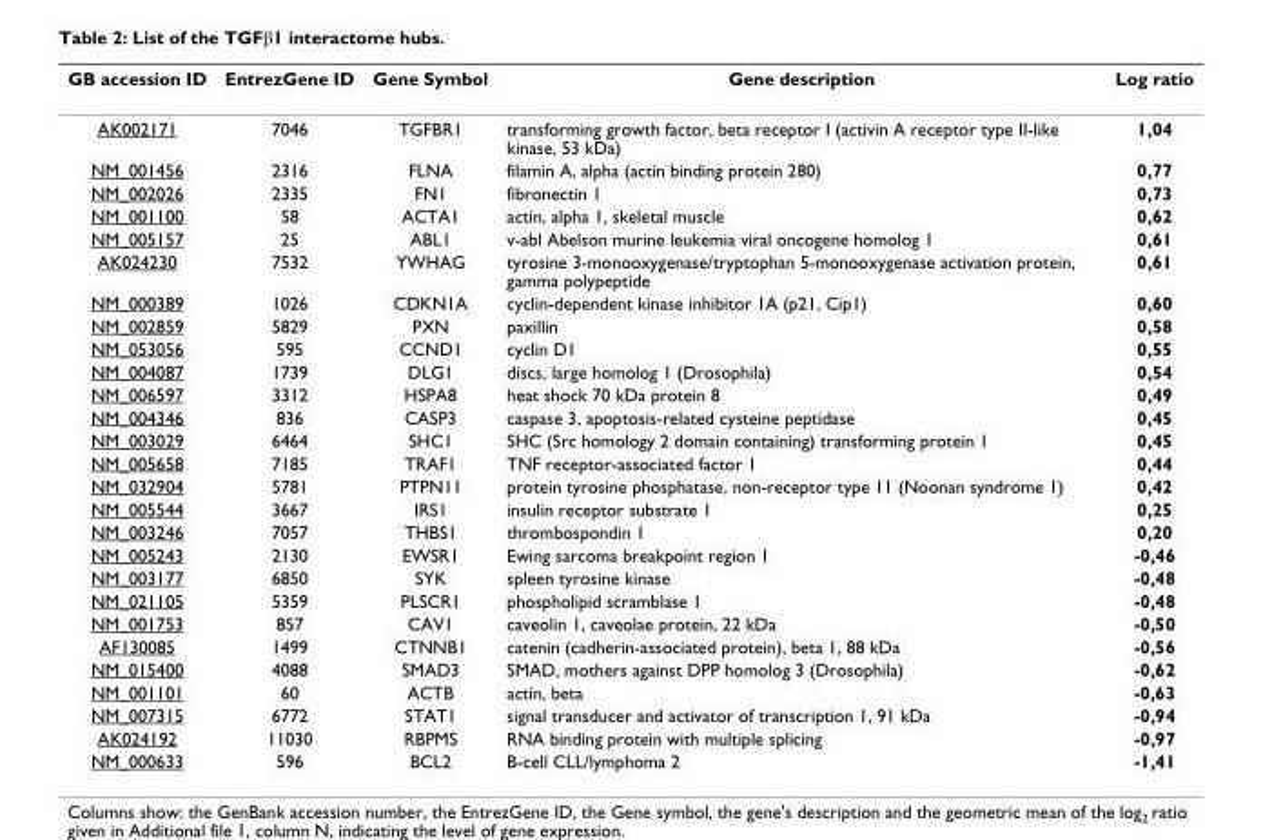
<table><thead><tr><td>GB accession ID</td><td>EntrezGene ID</td><td>Gene Symbol</td><td>Gene description</td><td>Log ratio</td></tr></thead><tbody><tr><td>AK002171</td><td>7046</td><td>TGFBR1</td><td>transforming growth factor, beta receptor I (activin A receptor type II-like kinase, 53 kDa)</td><td>1,04</td></tr><tr><td>NM_001456</td><td>2316</td><td>FLNA</td><td>filamin A, alpha (actin binding protein 280)</td><td>0,77</td></tr><tr><td>NM_002026</td><td>2335</td><td>FN1</td><td>fibronectin 1</td><td>0,73</td></tr><tr><td>NM_001100</td><td>58</td><td>ACTA1</td><td>actin, alpha 1, skeletal muscle</td><td>0,62</td></tr><tr><td>NM_005157</td><td>25</td><td>ABL1</td><td>v-abl Abelson murine leukemia viral oncogene homolog 1</td><td>0,61</td></tr><tr><td>AK024230</td><td>7532</td><td>YWHAG</td><td>tyrosine 3-monooxygenase/tryptophan 5-monooxygenase activation protein, gamma polypeptide</td><td>0,61</td></tr><tr><td>NM_000389</td><td>1026</td><td>CDKN1A</td><td>cyclin-dependent kinase inhibitor 1A (p21, Cip1)</td><td>0,60</td></tr><tr><td>NM_002859</td><td>5829</td><td>PXN</td><td>paxillin</td><td>0,58</td></tr><tr><td>NM_053056</td><td>595</td><td>CCND1</td><td>cyclin D1</td><td>0,55</td></tr><tr><td>NM_004087</td><td>1739</td><td>DLG1</td><td>discs, large homolog 1 (Drosophila)</td><td>0,54</td></tr><tr><td>NM_006597</td><td>3312</td><td>HSPA8</td><td>heat shock 70 kDa protein 8</td><td>0,49</td></tr><tr><td>NM_004346</td><td>836</td><td>CASP3</td><td>caspase 3, apoptosis-related cysteine peptidase</td><td>0,45</td></tr><tr><td>NM_003029</td><td>6464</td><td>SHC1</td><td>SHC (Src homology 2 domain containing) transforming protein 1</td><td>0,45</td></tr><tr><td>NM_005658</td><td>7185</td><td>TRAF1</td><td>TNF receptor-associated factor 1</td><td>0,44</td></tr><tr><td>NM_032904</td><td>5781</td><td>PTPN11</td><td>protein tyrosine phosphatase, non-receptor type 11 (Noonan syndrome 1)</td><td>0,42</td></tr><tr><td>NM_005544</td><td>3667</td><td>IRS1</td><td>insulin receptor substrate 1</td><td>0,25</td></tr><tr><td>NM_003246</td><td>7057</td><td>THBS1</td><td>thrombospondin 1</td><td>0,20</td></tr><tr><td>NM_005243</td><td>2130</td><td>EWSR1</td><td>Ewing sarcoma breakpoint region 1</td><td>-0,46</td></tr><tr><td>NM_003177</td><td>6850</td><td>SYK</td><td>spleen tyrosine kinase</td><td>-0,48</td></tr><tr><td>NM_021105</td><td>5359</td><td>PLSCR1</td><td>phospholipid scramblase 1</td><td>-0,48</td></tr><tr><td>NM_001753</td><td>857</td><td>CAV1</td><td>caveolin 1, caveolae protein, 22 kDa</td><td>-0,50</td></tr><tr><td>AF130085</td><td>1499</td><td>CTNNB1</td><td>catenin (cadherin-associated protein), beta 1, 88 kDa</td><td>-0,56</td></tr><tr><td>NM_015400</td><td>4088</td><td>SMAD3</td><td>SMAD, mothers against DPP homolog 3 (Drosophila)</td><td>-0,62</td></tr><tr><td>NM_001101</td><td>60</td><td>ACTB</td><td>actin, beta</td><td>-0,63</td></tr><tr><td>NM_007315</td><td>6772</td><td>STAT1</td><td>signal transducer and activator of transcription 1, 91 kDa</td><td>-0,94</td></tr><tr><td>AK024192</td><td>11030</td><td>RBPMS</td><td>RNA binding protein with multiple splicing</td><td>-0,97</td></tr><tr><td>NM_000633</td><td>596</td><td>BCL2</td><td>B-cell CLL/lymphoma 2</td><td>-1,41</td></tr></tbody></table>